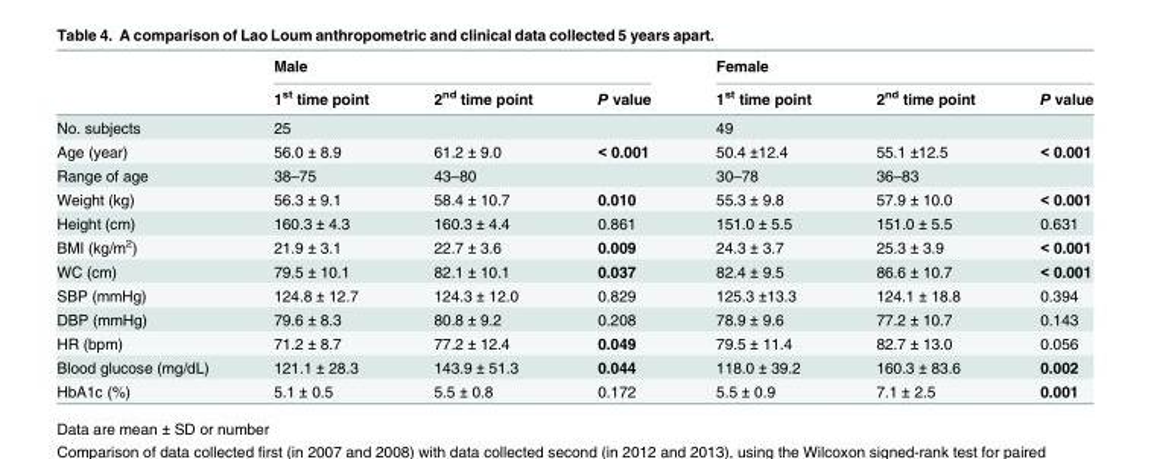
<table><thead><tr><td rowspan="2"></td><td colspan="3">Male</td><td colspan="3">Female</td></tr><tr><td>1<sup>st</sup> time point</td><td>2<sup>nd</sup> time point</td><td>P value</td><td>1<sup>st</sup> time point</td><td>2<sup>nd</sup> time point</td><td>P value</td></tr></thead><tbody><tr><td>No. subjects</td><td colspan="2">25</td><td></td><td colspan="2">49</td><td></td></tr><tr><td>Age (year)</td><td>56.0 ± 8.9</td><td>61.2 ± 9.0</td><td>&lt; 0.001</td><td>50.4 ±12.4</td><td>55.1 ±12.5</td><td>&lt; 0.001</td></tr><tr><td>Range of age</td><td>38–75</td><td>43–80</td><td></td><td>30–78</td><td>36–83</td><td></td></tr><tr><td>Weight (kg)</td><td>56.3 ± 9.1</td><td>58.4 ± 10.7</td><td>0.010</td><td>55.3 ± 9.8</td><td>57.9 ± 10.0</td><td>&lt; 0.001</td></tr><tr><td>Height (cm)</td><td>160.3 ± 4.3</td><td>160.3 ± 4.4</td><td>0.861</td><td>151.0 ± 5.5</td><td>151.0 ± 5.5</td><td>0.631</td></tr><tr><td>BMI (kg/m<sup>2</sup>)</td><td>21.9 ± 3.1</td><td>22.7 ± 3.6</td><td>0.009</td><td>24.3 ± 3.7</td><td>25.3 ± 3.9</td><td>&lt; 0.001</td></tr><tr><td>WC (cm)</td><td>79.5 ± 10.1</td><td>82.1 ± 10.1</td><td>0.037</td><td>82.4 ± 9.5</td><td>86.6 ± 10.7</td><td>&lt; 0.001</td></tr><tr><td>SBP (mmHg)</td><td>124.8 ± 12.7</td><td>124.3 ± 12.0</td><td>0.829</td><td>125.3 ±13.3</td><td>124.1 ± 18.8</td><td>0.394</td></tr><tr><td>DBP (mmHg)</td><td>79.6 ± 8.3</td><td>80.8 ± 9.2</td><td>0.208</td><td>78.9 ± 9.6</td><td>77.2 ± 10.7</td><td>0.143</td></tr><tr><td>HR (bpm)</td><td>71.2 ± 8.7</td><td>77.2 ± 12.4</td><td>0.049</td><td>79.5 ± 11.4</td><td>82.7 ± 13.0</td><td>0.056</td></tr><tr><td>Blood glucose (mg/dL)</td><td>121.1 ± 28.3</td><td>143.9 ± 51.3</td><td>0.044</td><td>118.0 ± 39.2</td><td>160.3 ± 83.6</td><td>0.002</td></tr><tr><td>HbA1c (%)</td><td>5.1 ± 0.5</td><td>5.5 ± 0.8</td><td>0.172</td><td>5.5 ± 0.9</td><td>7.1 ± 2.5</td><td>0.001</td></tr></tbody></table>